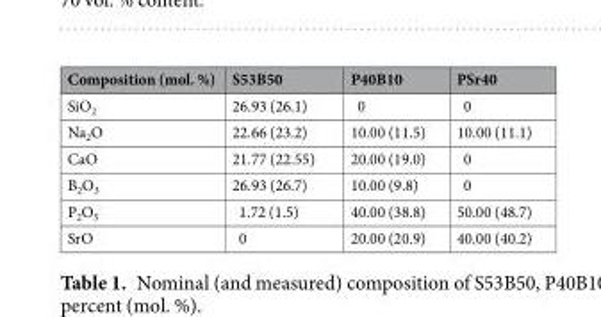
<table><thead><tr><td>Composition (mol. %)</td><td>S53B50</td><td>P40B10</td><td>PSr40</td></tr></thead><tbody><tr><td>SiO<sub>2</sub></td><td>26.93 (26.1)</td><td>0</td><td>0</td></tr><tr><td>Na<sub>2</sub>O</td><td>22.66 (23.2)</td><td>10.00 (11.5)</td><td>10.00 (11.1)</td></tr><tr><td>CaO</td><td>21.77 (22.55)</td><td>20.00 (19.0)</td><td>0</td></tr><tr><td>B<sub>2</sub>O<sub>3</sub></td><td>26.93 (26.7)</td><td>10.00 (9.8)</td><td>0</td></tr><tr><td>P<sub>2</sub>O<sub>5</sub></td><td>1.72 (1.5)</td><td>40.00 (38.8)</td><td>50.00 (48.7)</td></tr><tr><td>SrO</td><td>0</td><td>20.00 (20.9)</td><td>40.00 (40.2)</td></tr></tbody></table>